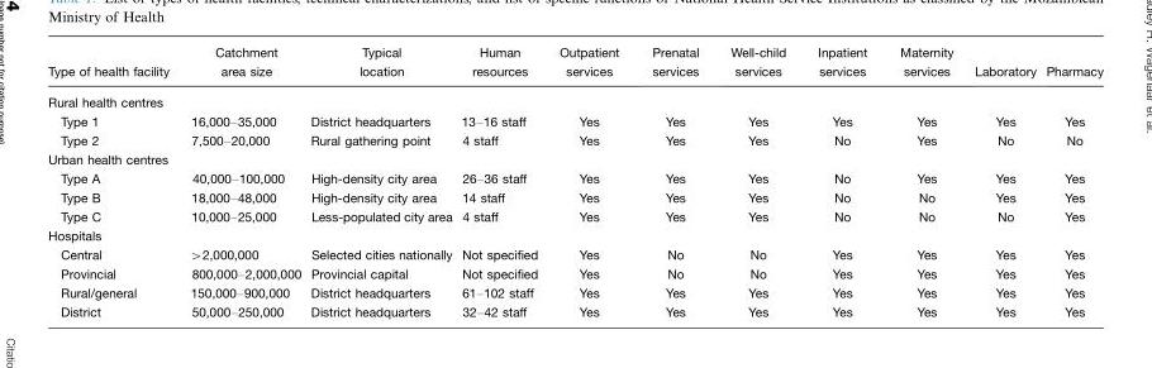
<table><thead><tr><td>Type of health facility</td><td>Catchment area size</td><td>Typical location</td><td>Human resources</td><td>Outpatient services</td><td>Prenatal services</td><td>Well-child services</td><td>Inpatient services</td><td>Maternity services</td><td>Laboratory</td><td>Pharmacy</td></tr></thead><tbody><tr><td colspan="11">Rural health centres</td></tr><tr><td>Type 1</td><td>16,000–35,000</td><td>District headquarters</td><td>13–16 staff</td><td>Yes</td><td>Yes</td><td>Yes</td><td>Yes</td><td>Yes</td><td>Yes</td><td>Yes</td></tr><tr><td>Type 2</td><td>7,500–20,000</td><td>Rural gathering point</td><td>4 staff</td><td>Yes</td><td>Yes</td><td>Yes</td><td>No</td><td>Yes</td><td>No</td><td>No</td></tr><tr><td colspan="11">Urban health centres</td></tr><tr><td>Type A</td><td>40,000–100,000</td><td>High-density city area</td><td>26–36 staff</td><td>Yes</td><td>Yes</td><td>Yes</td><td>No</td><td>Yes</td><td>Yes</td><td>Yes</td></tr><tr><td>Type B</td><td>18,000–48,000</td><td>High-density city area</td><td>14 staff</td><td>Yes</td><td>Yes</td><td>Yes</td><td>No</td><td>No</td><td>Yes</td><td>Yes</td></tr><tr><td>Type C</td><td>10,000–25,000</td><td>Less-populated city area</td><td>4 staff</td><td>Yes</td><td>Yes</td><td>Yes</td><td>No</td><td>No</td><td>No</td><td>Yes</td></tr><tr><td colspan="11">Hospitals</td></tr><tr><td>Central</td><td>&gt;2,000,000</td><td>Selected cities nationally</td><td>Not specified</td><td>Yes</td><td>No</td><td>No</td><td>Yes</td><td>Yes</td><td>Yes</td><td>Yes</td></tr><tr><td>Provincial</td><td>800,000–2,000,000</td><td>Provincial capital</td><td>Not specified</td><td>Yes</td><td>No</td><td>No</td><td>Yes</td><td>Yes</td><td>Yes</td><td>Yes</td></tr><tr><td>Rural/general</td><td>150,000–900,000</td><td>District headquarters</td><td>61–102 staff</td><td>Yes</td><td>Yes</td><td>Yes</td><td>Yes</td><td>Yes</td><td>Yes</td><td>Yes</td></tr><tr><td>District</td><td>50,000–250,000</td><td>District headquarters</td><td>32–42 staff</td><td>Yes</td><td>Yes</td><td>Yes</td><td>Yes</td><td>Yes</td><td>Yes</td><td>Yes</td></tr></tbody></table>